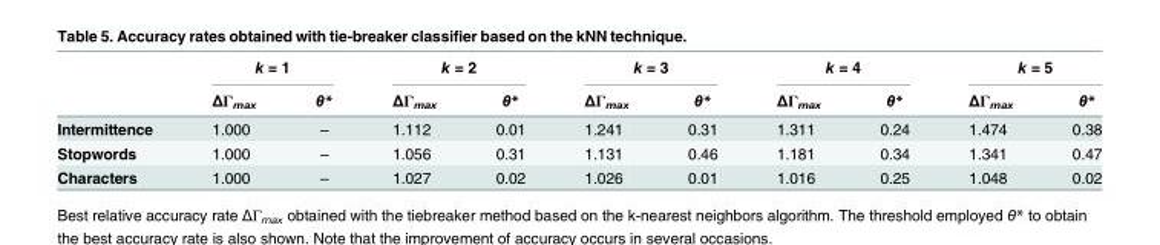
<table><thead><tr><td rowspan="2"></td><td colspan="2">k = 1</td><td colspan="2">k = 2</td><td colspan="2">k = 3</td><td colspan="2">k = 4</td><td colspan="2">k = 5</td></tr><tr><td>ΔΓ<sub>max</sub></td><td>θ*</td><td>ΔΓ<sub>max</sub></td><td>θ*</td><td>ΔΓ<sub>max</sub></td><td>θ*</td><td>ΔΓ<sub>max</sub></td><td>θ*</td><td>ΔΓ<sub>max</sub></td><td>θ*</td></tr></thead><tbody><tr><td>Intermittence</td><td>1.000</td><td>–</td><td>1.112</td><td>0.01</td><td>1.241</td><td>0.31</td><td>1.311</td><td>0.24</td><td>1.474</td><td>0.38</td></tr><tr><td>Stopwords</td><td>1.000</td><td>–</td><td>1.056</td><td>0.31</td><td>1.131</td><td>0.46</td><td>1.181</td><td>0.34</td><td>1.341</td><td>0.47</td></tr><tr><td>Characters</td><td>1.000</td><td>–</td><td>1.027</td><td>0.02</td><td>1.026</td><td>0.01</td><td>1.016</td><td>0.25</td><td>1.048</td><td>0.02</td></tr></tbody></table>